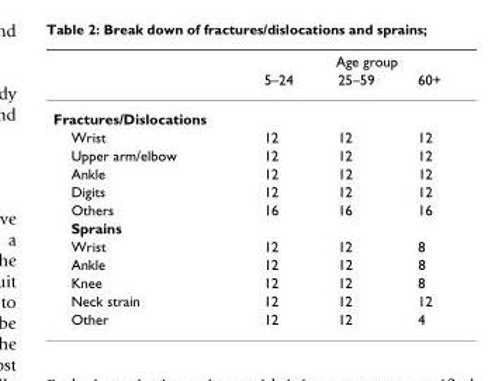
<table><thead><tr><td rowspan="2"></td><td colspan="3">Age group</td></tr><tr><td>5–24</td><td>25–59</td><td>60+</td></tr></thead><tbody><tr><td colspan="4">Fractures/Dislocations</td></tr><tr><td>Wrist</td><td>12</td><td>12</td><td>12</td></tr><tr><td>Upper arm/elbow</td><td>12</td><td>12</td><td>12</td></tr><tr><td>Ankle</td><td>12</td><td>12</td><td>12</td></tr><tr><td>Digits</td><td>12</td><td>12</td><td>12</td></tr><tr><td>Others</td><td>16</td><td>16</td><td>16</td></tr><tr><td colspan="4">Sprains</td></tr><tr><td>Wrist</td><td>12</td><td>12</td><td>8</td></tr><tr><td>Ankle</td><td>12</td><td>12</td><td>8</td></tr><tr><td>Knee</td><td>12</td><td>12</td><td>8</td></tr><tr><td>Neck strain</td><td>12</td><td>12</td><td>12</td></tr><tr><td>Other</td><td>12</td><td>12</td><td>4</td></tr></tbody></table>